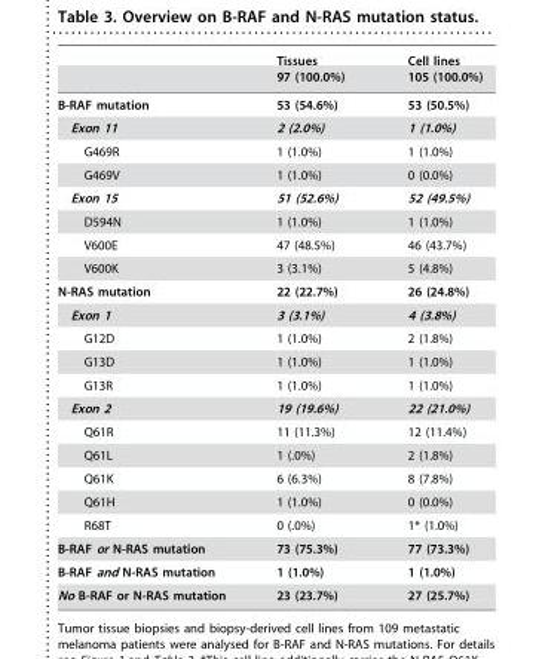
<table><thead><tr><td rowspan="2"></td><td rowspan="2">Tissues 97 (100.0%)</td><td rowspan="2">Cell lines 105 (100.0%)</td></tr><tr></tr></thead><tbody><tr><td>B-RAF mutation</td><td>53 (54.6%)</td><td>53 (50.5%)</td></tr><tr><td>Exon 11</td><td>2 (2.0%)</td><td>1 (1.0%)</td></tr><tr><td>G469R</td><td>1 (1.0%)</td><td>1 (1.0%)</td></tr><tr><td>G469V</td><td>1 (1.0%)</td><td>0 (0.0%)</td></tr><tr><td>Exon 15</td><td>51 (52.6%)</td><td>52 (49.5%)</td></tr><tr><td>D594N</td><td>1 (1.0%)</td><td>1 (1.0%)</td></tr><tr><td>V600E</td><td>47 (48.5%)</td><td>46 (43.7%)</td></tr><tr><td>V600K</td><td>3 (3.1%)</td><td>5 (4.8%)</td></tr><tr><td>N-RAS mutation</td><td>22 (22.7%)</td><td>26 (24.8%)</td></tr><tr><td>Exon 1</td><td>3 (3.1%)</td><td>4 (3.8%)</td></tr><tr><td>G12D</td><td>1 (1.0%)</td><td>2 (1.8%)</td></tr><tr><td>G13D</td><td>1 (1.0%)</td><td>1 (1.0%)</td></tr><tr><td>G13R</td><td>1 (1.0%)</td><td>1 (1.0%)</td></tr><tr><td>Exon 2</td><td>19 (19.6%)</td><td>22 (21.0%)</td></tr><tr><td>Q61R</td><td>11 (11.3%)</td><td>12 (11.4%)</td></tr><tr><td>Q61L</td><td>1 (.0%)</td><td>2 (1.8%)</td></tr><tr><td>Q61K</td><td>6 (6.3%)</td><td>8 (7.8%)</td></tr><tr><td>Q61H</td><td>1 (1.0%)</td><td>0 (0.0%)</td></tr><tr><td>R68T</td><td>0 (.0%)</td><td>1* (1.0%)</td></tr><tr><td>B-RAF or N-RAS mutation</td><td>73 (75.3%)</td><td>77 (73.3%)</td></tr><tr><td>B-RAF and N-RAS mutation</td><td>1 (1.0%)</td><td>1 (1.0%)</td></tr><tr><td>No B-RAF or N-RAS mutation</td><td>23 (23.7%)</td><td>27 (25.7%)</td></tr></tbody></table>